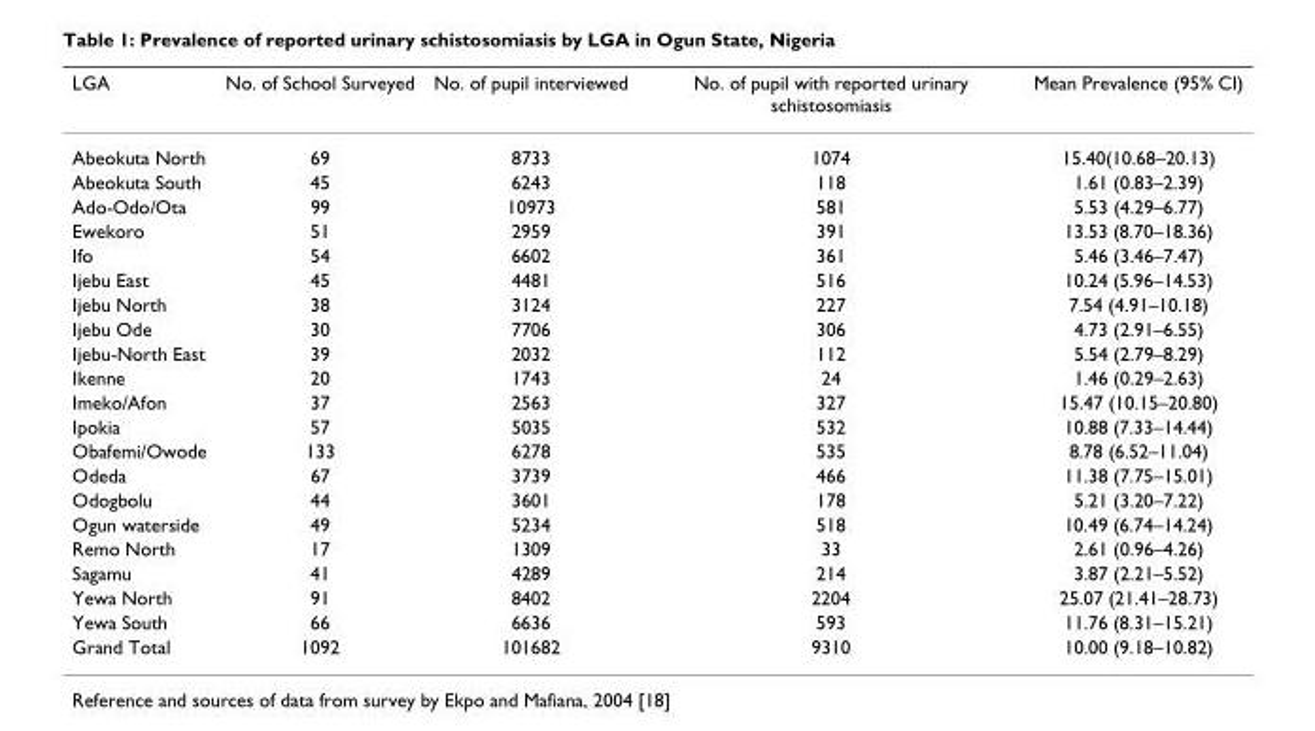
<table><thead><tr><td>LGA</td><td>No. of School Surveyed</td><td>No. of pupil interviewed</td><td>No. of pupil with reported urinary schistosomiasis</td><td>Mean Prevalence (95% CI)</td></tr></thead><tbody><tr><td>Abeokuta North</td><td>69</td><td>8733</td><td>1074</td><td>15.40(10.68–20.13)</td></tr><tr><td>Abeokuta South</td><td>45</td><td>6243</td><td>118</td><td>1.61 (0.83–2.39)</td></tr><tr><td>Ado-Odo/Ota</td><td>99</td><td>10973</td><td>581</td><td>5.53 (4.29–6.77)</td></tr><tr><td>Ewekoro</td><td>51</td><td>2959</td><td>391</td><td>13.53 (8.70–18.36)</td></tr><tr><td>Ifo</td><td>54</td><td>6602</td><td>361</td><td>5.46 (3.46–7.47)</td></tr><tr><td>Ijebu East</td><td>45</td><td>4481</td><td>516</td><td>10.24 (5.96–14.53)</td></tr><tr><td>Ijebu North</td><td>38</td><td>3124</td><td>227</td><td>7.54 (4.91–10.18)</td></tr><tr><td>Ijebu Ode</td><td>30</td><td>7706</td><td>306</td><td>4.73 (2.91–6.55)</td></tr><tr><td>Ijebu-North East</td><td>39</td><td>2032</td><td>112</td><td>5.54 (2.79–8.29)</td></tr><tr><td>Ikenne</td><td>20</td><td>1743</td><td>24</td><td>1.46 (0.29–2.63)</td></tr><tr><td>Imeko/Afon</td><td>37</td><td>2563</td><td>327</td><td>15.47 (10.15–20.80)</td></tr><tr><td>Ipokia</td><td>57</td><td>5035</td><td>532</td><td>10.88 (7.33–14.44)</td></tr><tr><td>Obafemi/Owode</td><td>133</td><td>6278</td><td>535</td><td>8.78 (6.52–11.04)</td></tr><tr><td>Odeda</td><td>67</td><td>3739</td><td>466</td><td>11.38 (7.75–15.01)</td></tr><tr><td>Odogbolu</td><td>44</td><td>3601</td><td>178</td><td>5.21 (3.20–7.22)</td></tr><tr><td>Ogun waterside</td><td>49</td><td>5234</td><td>518</td><td>10.49 (6.74–14.24)</td></tr><tr><td>Remo North</td><td>17</td><td>1309</td><td>33</td><td>2.61 (0.96–4.26)</td></tr><tr><td>Sagamu</td><td>41</td><td>4289</td><td>214</td><td>3.87 (2.21–5.52)</td></tr><tr><td>Yewa North</td><td>91</td><td>8402</td><td>2204</td><td>25.07 (21.41–28.73)</td></tr><tr><td>Yewa South</td><td>66</td><td>6636</td><td>593</td><td>11.76 (8.31–15.21)</td></tr><tr><td>Grand Total</td><td>1092</td><td>101682</td><td>9310</td><td>10.00 (9.18–10.82)</td></tr></tbody></table>